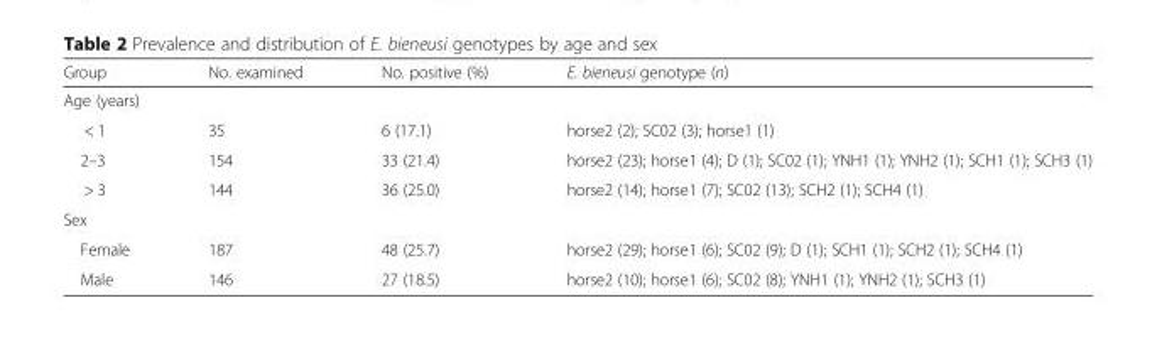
<table><thead><tr><td>Group</td><td>No. examined</td><td>No. positive (%)</td><td>E. bieneusi genotype (n)</td></tr></thead><tbody><tr><td colspan="4">Age (years)</td></tr><tr><td>&lt; 1</td><td>35</td><td>6 (17.1)</td><td>horse2 (2); SC02 (3); horse1 (1)</td></tr><tr><td>2–3</td><td>154</td><td>33 (21.4)</td><td>horse2 (23); horse1 (4); D (1); SC02 (1); YNH1 (1); YNH2 (1); SCH1 (1); SCH3 (1)</td></tr><tr><td>&gt; 3</td><td>144</td><td>36 (25.0)</td><td>horse2 (14); horse1 (7); SC02 (13); SCH2 (1); SCH4 (1)</td></tr><tr><td colspan="4">Sex</td></tr><tr><td>Female</td><td>187</td><td>48 (25.7)</td><td>horse2 (29); horse1 (6); SC02 (9); D (1); SCH1 (1); SCH2 (1); SCH4 (1)</td></tr><tr><td>Male</td><td>146</td><td>27 (18.5)</td><td>horse2 (10); horse1 (6); SC02 (8); YNH1 (1); YNH2 (1); SCH3 (1)</td></tr></tbody></table>